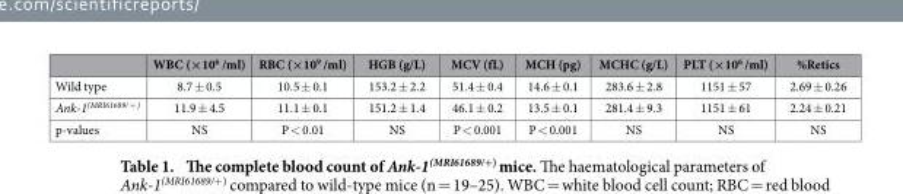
<table><thead><tr><td></td><td>WBC (×10<sup>6</sup> /ml)</td><td>RBC (×10<sup>9</sup> /ml)</td><td>HGB (g/L)</td><td>MCV (fL)</td><td>MCH (pg)</td><td>MCHC (g/L)</td><td>PLT (×10<sup>6</sup> /ml)</td><td>%Retics</td></tr></thead><tbody><tr><td>Wild type</td><td>8.7 ± 0.5</td><td>10.5 ± 0.1</td><td>153.2 ± 2.2</td><td>51.4 ± 0.4</td><td>14.6 ± 0.1</td><td>283.6 ± 2.8</td><td>1151 ± 57</td><td>2.69 ± 0.26</td></tr><tr><td>Ank-1<sup>(MRI61689/ + )</sup></td><td>11.9 ± 4.5</td><td>11.1 ± 0.1</td><td>151.2 ± 1.4</td><td>46.1 ± 0.2</td><td>13.5 ± 0.1</td><td>281.4 ± 9.3</td><td>1151 ± 61</td><td>2.24 ± 0.21</td></tr><tr><td>p-values</td><td>NS</td><td>P &lt; 0.01</td><td>NS</td><td>P &lt; 0.001</td><td>P &lt; 0.001</td><td>NS</td><td>NS</td><td>NS</td></tr></tbody></table>